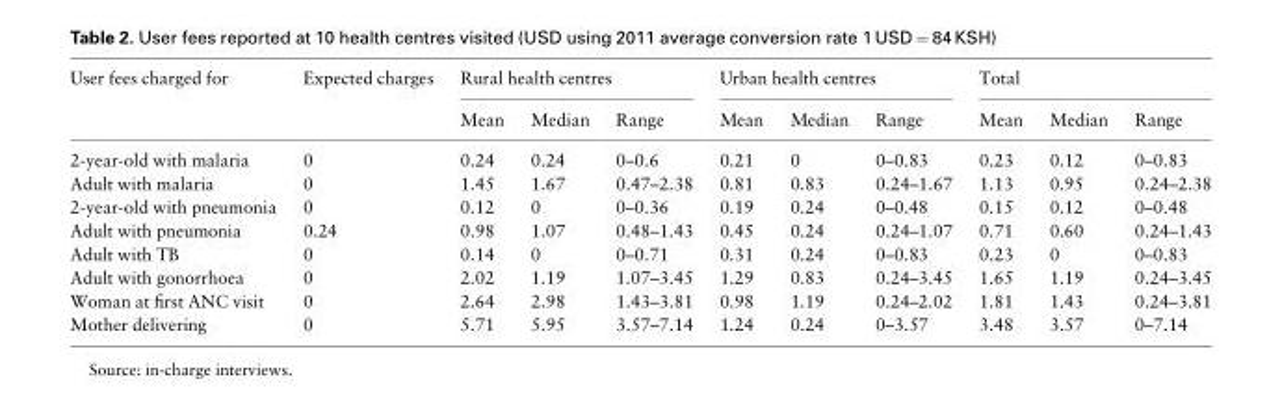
<table><thead><tr><td rowspan="2">User fees charged for</td><td rowspan="2">Expected charges</td><td colspan="3">Rural health centres</td><td colspan="3">Urban health centres</td><td colspan="3">Total</td></tr><tr><td>Mean</td><td>Median</td><td>Range</td><td>Mean</td><td>Median</td><td>Range</td><td>Mean</td><td>Median</td><td>Range</td></tr></thead><tbody><tr><td>2-year-old with malaria</td><td>0</td><td>0.24</td><td>0.24</td><td>0–0.6</td><td>0.21</td><td>0</td><td>0–0.83</td><td>0.23</td><td>0.12</td><td>0–0.83</td></tr><tr><td>Adult with malaria</td><td>0</td><td>1.45</td><td>1.67</td><td>0.47–2.38</td><td>0.81</td><td>0.83</td><td>0.24–1.67</td><td>1.13</td><td>0.95</td><td>0.24–2.38</td></tr><tr><td>2-year-old with pneumonia</td><td>0</td><td>0.12</td><td>0</td><td>0–0.36</td><td>0.19</td><td>0.24</td><td>0–0.48</td><td>0.15</td><td>0.12</td><td>0–0.48</td></tr><tr><td>Adult with pneumonia</td><td>0.24</td><td>0.98</td><td>1.07</td><td>0.48–1.43</td><td>0.45</td><td>0.24</td><td>0.24–1.07</td><td>0.71</td><td>0.60</td><td>0.24–1.43</td></tr><tr><td>Adult with TB</td><td>0</td><td>0.14</td><td>0</td><td>0–0.71</td><td>0.31</td><td>0.24</td><td>0–0.83</td><td>0.23</td><td>0</td><td>0–0.83</td></tr><tr><td>Adult with gonorrhoea</td><td>0</td><td>2.02</td><td>1.19</td><td>1.07–3.45</td><td>1.29</td><td>0.83</td><td>0.24–3.45</td><td>1.65</td><td>1.19</td><td>0.24–3.45</td></tr><tr><td>Woman at first ANC visit</td><td>0</td><td>2.64</td><td>2.98</td><td>1.43–3.81</td><td>0.98</td><td>1.19</td><td>0.24–2.02</td><td>1.81</td><td>1.43</td><td>0.24–3.81</td></tr><tr><td>Mother delivering</td><td>0</td><td>5.71</td><td>5.95</td><td>3.57–7.14</td><td>1.24</td><td>0.24</td><td>0–3.57</td><td>3.48</td><td>3.57</td><td>0–7.14</td></tr></tbody></table>